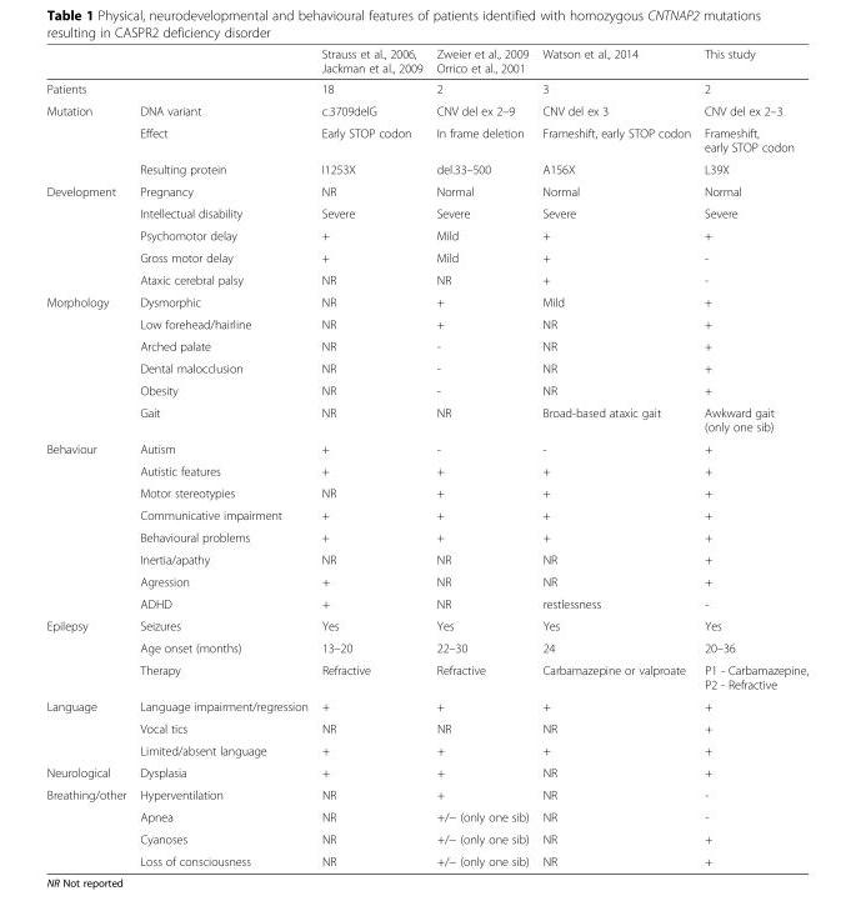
<table><thead><tr><td></td><td></td><td>Strauss et al., 2006, Jackman et al., 2009</td><td>Zweier et al., 2009 Orrico et al., 2001</td><td>Watson et al., 2014</td><td>This study</td></tr></thead><tbody><tr><td>Patients</td><td></td><td>18</td><td>2</td><td>3</td><td>2</td></tr><tr><td rowspan="3">Mutation</td><td>DNA variant</td><td>c.3709delG</td><td>CNV del ex 2–9</td><td>CNV del ex 3</td><td>CNV del ex 2–3</td></tr><tr><td>Effect</td><td>Early STOP codon</td><td>In frame deletion</td><td>Frameshift, early STOP codon</td><td>Frameshift, early STOP codon</td></tr><tr><td>Resulting protein</td><td>I1253X</td><td>del.33–500</td><td>A156X</td><td>L39X</td></tr><tr><td rowspan="5">Development</td><td>Pregnancy</td><td>NR</td><td>Normal</td><td>Normal</td><td>Normal</td></tr><tr><td>Intellectual disability</td><td>Severe</td><td>Severe</td><td>Severe</td><td>Severe</td></tr><tr><td>Psychomotor delay</td><td>+</td><td>Mild</td><td>+</td><td>+</td></tr><tr><td>Gross motor delay</td><td>+</td><td>Mild</td><td>+</td><td>-</td></tr><tr><td>Ataxic cerebral palsy</td><td>NR</td><td>NR</td><td>+</td><td>-</td></tr><tr><td rowspan="6">Morphology</td><td>Dysmorphic</td><td>NR</td><td>+</td><td>Mild</td><td>+</td></tr><tr><td>Low forehead/hairline</td><td>NR</td><td>+</td><td>NR</td><td>+</td></tr><tr><td>Arched palate</td><td>NR</td><td>-</td><td>NR</td><td>+</td></tr><tr><td>Dental malocclusion</td><td>NR</td><td>-</td><td>NR</td><td>+</td></tr><tr><td>Obesity</td><td>NR</td><td>-</td><td>NR</td><td>+</td></tr><tr><td>Gait</td><td>NR</td><td>NR</td><td>Broad-based ataxic gait</td><td>Awkward gait (only one sib)</td></tr><tr><td rowspan="8">Behaviour</td><td>Autism</td><td>+</td><td>-</td><td>-</td><td>+</td></tr><tr><td>Autistic features</td><td>+</td><td>+</td><td>+</td><td>+</td></tr><tr><td>Motor stereotypies</td><td>NR</td><td>+</td><td>+</td><td>+</td></tr><tr><td>Communicative impairment</td><td>+</td><td>+</td><td>+</td><td>+</td></tr><tr><td>Behavioural problems</td><td>+</td><td>+</td><td>+</td><td>+</td></tr><tr><td>Inertia/apathy</td><td>NR</td><td>NR</td><td>NR</td><td>+</td></tr><tr><td>Agression</td><td>+</td><td>NR</td><td>NR</td><td>+</td></tr><tr><td>ADHD</td><td>+</td><td>NR</td><td>restlessness</td><td>-</td></tr><tr><td rowspan="3">Epilepsy</td><td>Seizures</td><td>Yes</td><td>Yes</td><td>Yes</td><td>Yes</td></tr><tr><td>Age onset (months)</td><td>13–20</td><td>22–30</td><td>24</td><td>20–36</td></tr><tr><td>Therapy</td><td>Refractive</td><td>Refractive</td><td>Carbamazepine or valproate</td><td>P1 - Carbamazepine, P2 - Refractive</td></tr><tr><td rowspan="3">Language</td><td>Language impairment/regression</td><td>+</td><td>+</td><td>+</td><td>+</td></tr><tr><td>Vocal tics</td><td>NR</td><td>NR</td><td>NR</td><td>+</td></tr><tr><td>Limited/absent language</td><td>+</td><td>+</td><td>+</td><td>+</td></tr><tr><td>Neurological</td><td>Dysplasia</td><td>+</td><td>+</td><td>NR</td><td>+</td></tr><tr><td rowspan="4">Breathing/other</td><td>Hyperventilation</td><td>NR</td><td>+</td><td>NR</td><td>-</td></tr><tr><td>Apnea</td><td>NR</td><td>+/− (only one sib)</td><td>NR</td><td>-</td></tr><tr><td>Cyanoses</td><td>NR</td><td>+/− (only one sib)</td><td>NR</td><td>+</td></tr><tr><td>Loss of consciousness</td><td>NR</td><td>+/− (only one sib)</td><td>NR</td><td>+</td></tr></tbody></table>